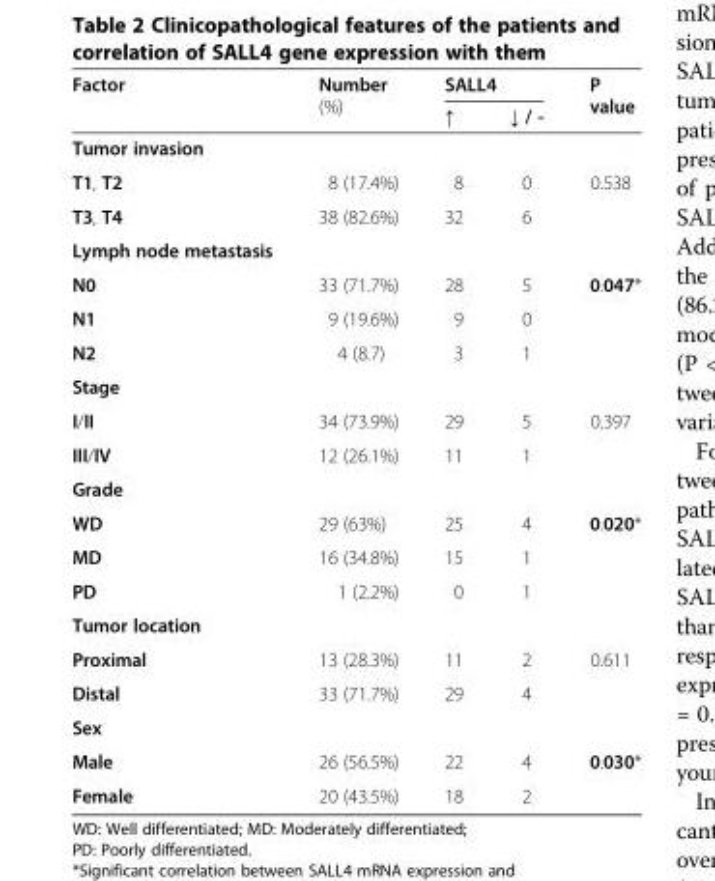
<table><thead><tr><td rowspan="2">Factor</td><td rowspan="2">Number (%)</td><td colspan="2">SALL4</td><td rowspan="2">P value</td></tr><tr><td>↑</td><td>↓ / -</td></tr></thead><tbody><tr><td colspan="5">Tumor invasion</td></tr><tr><td>T1, T2</td><td>8 (17.4%)</td><td>8</td><td>0</td><td rowspan="2">0.538</td></tr><tr><td>T3, T4</td><td>38 (82.6%)</td><td>32</td><td>6</td></tr><tr><td colspan="5">Lymph node metastasis</td></tr><tr><td>N0</td><td>33 (71.7%)</td><td>28</td><td>5</td><td rowspan="3">0.047*</td></tr><tr><td>N1</td><td>9 (19.6%)</td><td>9</td><td>0</td></tr><tr><td>N2</td><td>4 (8.7)</td><td>3</td><td>1</td></tr><tr><td colspan="5">Stage</td></tr><tr><td>I/II</td><td>34 (73.9%)</td><td>29</td><td>5</td><td rowspan="2">0.397</td></tr><tr><td>III/IV</td><td>12 (26.1%)</td><td>11</td><td>1</td></tr><tr><td colspan="5">Grade</td></tr><tr><td>WD</td><td>29 (63%)</td><td>25</td><td>4</td><td rowspan="3">0.020*</td></tr><tr><td>MD</td><td>16 (34.8%)</td><td>15</td><td>1</td></tr><tr><td>PD</td><td>1 (2.2%)</td><td>0</td><td>1</td></tr><tr><td colspan="5">Tumor location</td></tr><tr><td>Proximal</td><td>13 (28.3%)</td><td>11</td><td>2</td><td rowspan="2">0.611</td></tr><tr><td>Distal</td><td>33 (71.7%)</td><td>29</td><td>4</td></tr><tr><td colspan="5">Sex</td></tr><tr><td>Male</td><td>26 (56.5%)</td><td>22</td><td>4</td><td rowspan="2">0.030*</td></tr><tr><td>Female</td><td>20 (43.5%)</td><td>18</td><td>2</td></tr></tbody></table>